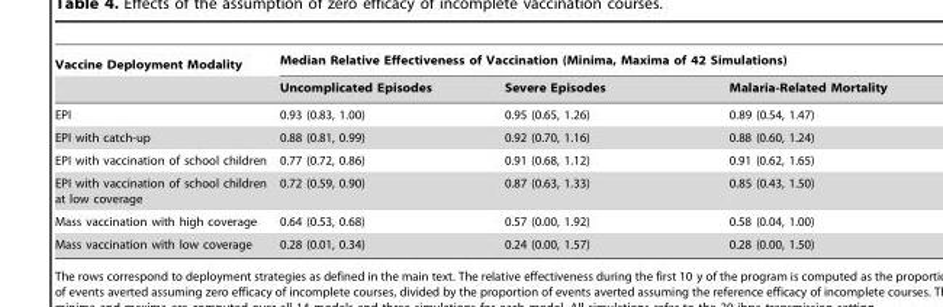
<table><thead><tr><td rowspan="2">Vaccine Deployment Modality</td><td colspan="3">Median Relative Effectiveness of Vaccination (Minima, Maxima of 42 Simulations)</td></tr><tr><td>Uncomplicated Episodes</td><td>Severe Episodes</td><td>Malaria-Related Mortality</td></tr></thead><tbody><tr><td>EPI</td><td>0.93 (0.83, 1.00)</td><td>0.95 (0.65, 1.26)</td><td>0.89 (0.54, 1.47)</td></tr><tr><td>EPI with catch-up</td><td>0.88 (0.81, 0.99)</td><td>0.92 (0.70, 1.16)</td><td>0.88 (0.60, 1.24)</td></tr><tr><td>EPI with vaccination of school children</td><td>0.77 (0.72, 0.86)</td><td>0.91 (0.68, 1.12)</td><td>0.91 (0.62, 1.65)</td></tr><tr><td>EPI with vaccination of school children at low coverage</td><td>0.72 (0.59, 0.90)</td><td>0.87 (0.63, 1.33)</td><td>0.85 (0.43, 1.50)</td></tr><tr><td>Mass vaccination with high coverage</td><td>0.64 (0.53, 0.68)</td><td>0.57 (0.00, 1.92)</td><td>0.58 (0.04, 1.00)</td></tr><tr><td>Mass vaccination with low coverage</td><td>0.28 (0.01, 0.34)</td><td>0.24 (0.00, 1.57)</td><td>0.28 (0.00, 1.50)</td></tr></tbody></table>